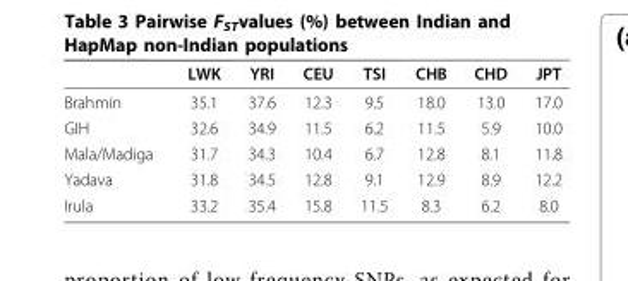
<table><thead><tr><td></td><td>LWK</td><td>YRI</td><td>CEU</td><td>TSI</td><td>CHB</td><td>CHD</td><td>JPT</td></tr></thead><tbody><tr><td>Brahmin</td><td>35.1</td><td>37.6</td><td>12.3</td><td>9.5</td><td>18.0</td><td>13.0</td><td>17.0</td></tr><tr><td>GIH</td><td>32.6</td><td>34.9</td><td>11.5</td><td>6.2</td><td>11.5</td><td>5.9</td><td>10.0</td></tr><tr><td>Mala/Madiga</td><td>31.7</td><td>34.3</td><td>10.4</td><td>6.7</td><td>12.8</td><td>8.1</td><td>11.8</td></tr><tr><td>Yadava</td><td>31.8</td><td>34.5</td><td>12.8</td><td>9.1</td><td>12.9</td><td>8.9</td><td>12.2</td></tr><tr><td>Irula</td><td>33.2</td><td>35.4</td><td>15.8</td><td>11.5</td><td>8.3</td><td>6.2</td><td>8.0</td></tr></tbody></table>